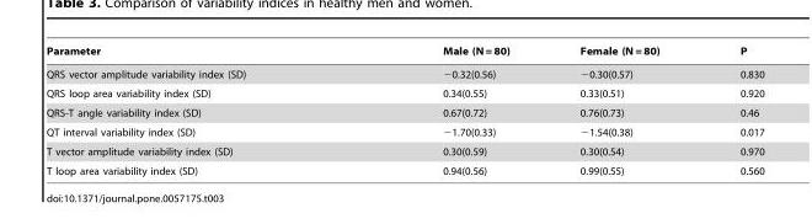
<table><thead><tr><td>Parameter</td><td>Male (N = 80)</td><td>Female (N = 80)</td><td>P</td></tr></thead><tbody><tr><td>QRS vector amplitude variability index (SD)</td><td>−0.32(0.56)</td><td>−0.30(0.57)</td><td>0.830</td></tr><tr><td>QRS loop area variability index (SD)</td><td>0.34(0.55)</td><td>0.33(0.51)</td><td>0.920</td></tr><tr><td>QRS-T angle variability index (SD)</td><td>0.67(0.72)</td><td>0.76(0.73)</td><td>0.46</td></tr><tr><td>QT interval variability index (SD)</td><td>−1.70(0.33)</td><td>−1.54(0.38)</td><td>0.017</td></tr><tr><td>T vector amplitude variability index (SD)</td><td>0.30(0.59)</td><td>0.30(0.54)</td><td>0.970</td></tr><tr><td>T loop area variability index (SD)</td><td>0.94(0.56)</td><td>0.99(0.55)</td><td>0.560</td></tr></tbody></table>